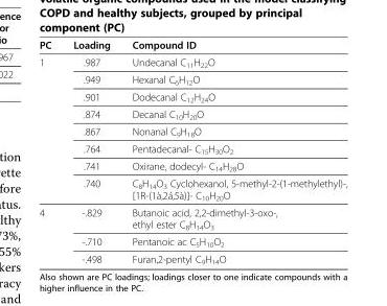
<table><thead><tr><td>PC</td><td>Loading</td><td>Compound ID</td></tr></thead><tbody><tr><td rowspan="8">1</td><td>.987</td><td>Undecanal C<sub>11</sub>H<sub>22</sub>O</td></tr><tr><td>.949</td><td>Hexanal C<sub>6</sub>H<sub>12</sub>O</td></tr><tr><td>.901</td><td>Dodecanal C<sub>12</sub>H<sub>24</sub>O</td></tr><tr><td>.874</td><td>Decanal C<sub>10</sub>H<sub>20</sub>O</td></tr><tr><td>.867</td><td>Nonanal C<sub>9</sub>H<sub>18</sub>O</td></tr><tr><td>.764</td><td>Pentadecanal- C<sub>15</sub>H<sub>30</sub>O<sub>2</sub></td></tr><tr><td>.741</td><td>Oxirane, dodecyl- C<sub>14</sub>H<sub>28</sub>O</td></tr><tr><td>.740</td><td>C<sub>8</sub>H<sub>14</sub>O<sub>3</sub> Cyclohexanol, 5-methyl-2-(1-methylethyl)-, [1R-(1à,2á,5à)]- C<sub>10</sub>H<sub>20</sub>O</td></tr><tr><td rowspan="3">4</td><td>-.829</td><td>Butanoic acid, 2,2-dimethyl-3-oxo-, ethyl ester C<sub>8</sub>H<sub>14</sub>O<sub>3</sub></td></tr><tr><td>-.710</td><td>Pentanoic ac C<sub>5</sub>H<sub>10</sub>O<sub>2</sub></td></tr><tr><td>-.498</td><td>Furan,2-pentyl C<sub>9</sub>H<sub>14</sub>O</td></tr></tbody></table>